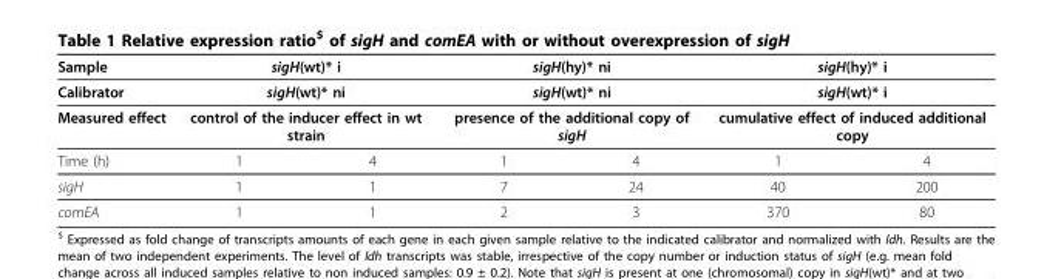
<table><thead><tr><td rowspan="4">Sample Calibrator Measured effect Time (h)</td><td rowspan="3" colspan="2">sigH(wt)* i sigH(wt)* ni control of the inducer effect in wt strain</td><td rowspan="3" colspan="2">sigH(hy)* ni sigH(wt)* ni presence of the additional copy of sigH</td><td rowspan="3" colspan="2">sigH(hy)* i sigH(wt)* i cumulative effect of induced additional copy</td></tr><tr></tr><tr></tr><tr><td>1</td><td>4</td><td>1</td><td>4</td><td>1</td><td>4</td></tr></thead><tbody><tr><td>sigH</td><td>1</td><td>1</td><td>7</td><td>24</td><td>40</td><td>200</td></tr><tr><td>comEA</td><td>1</td><td>1</td><td>2</td><td>3</td><td>370</td><td>80</td></tr></tbody></table>